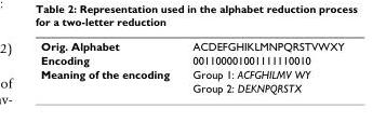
<table><tbody><tr><td>Orig. Alphabet</td><td>ACDEFGHIKLMNPQRSTVWXY</td></tr><tr><td>Encoding</td><td>001100001001111110010</td></tr><tr><td rowspan="2">Meaning of the encoding</td><td>Group 1: ACFGHILMV WY</td></tr><tr><td>Group 2: DEKNPQRSTX</td></tr></tbody></table>